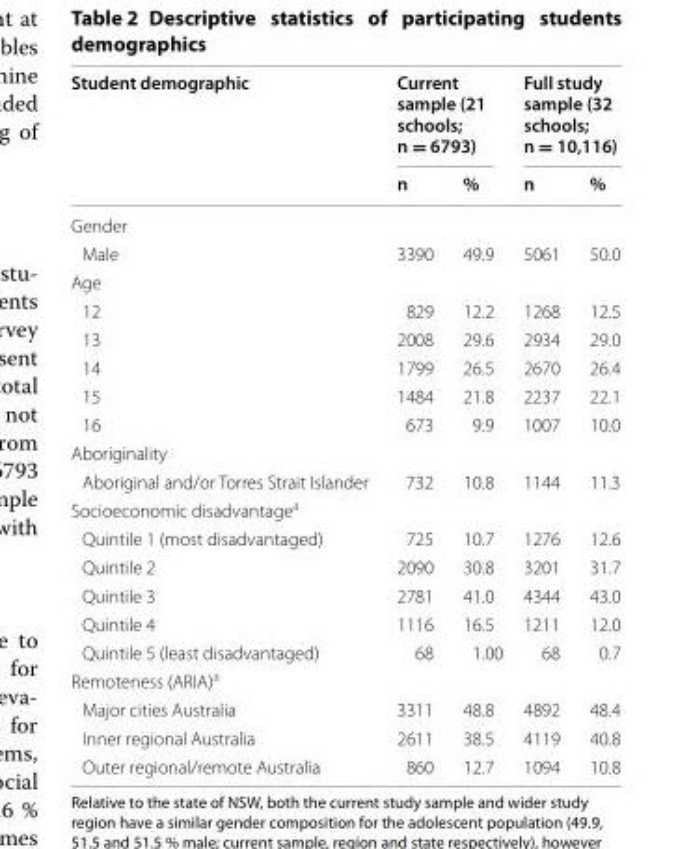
<table><thead><tr><td rowspan="2">Student demographic</td><td colspan="2">Current sample (21 schools; n = 6793)</td><td colspan="2">Full study sample (32 schools; n = 10,116)</td></tr><tr><td>n</td><td>%</td><td>n</td><td>%</td></tr></thead><tbody><tr><td colspan="5">Gender</td></tr><tr><td>Male</td><td>3390</td><td>49.9</td><td>5061</td><td>50.0</td></tr><tr><td colspan="5">Age</td></tr><tr><td>12</td><td>829</td><td>12.2</td><td>1268</td><td>12.5</td></tr><tr><td>13</td><td>2008</td><td>29.6</td><td>2934</td><td>29.0</td></tr><tr><td>14</td><td>1799</td><td>26.5</td><td>2670</td><td>26.4</td></tr><tr><td>15</td><td>1484</td><td>21.8</td><td>2237</td><td>22.1</td></tr><tr><td>16</td><td>673</td><td>9.9</td><td>1007</td><td>10.0</td></tr><tr><td colspan="5">Aboriginality</td></tr><tr><td>Aboriginal and/or Torres Strait Islander</td><td>732</td><td>10.8</td><td>1144</td><td>11.3</td></tr><tr><td colspan="5">Socioeconomic disadvantage<sup>a</sup></td></tr><tr><td>Quintile 1 (most disadvantaged)</td><td>725</td><td>10.7</td><td>1276</td><td>12.6</td></tr><tr><td>Quintile 2</td><td>2090</td><td>30.8</td><td>3201</td><td>31.7</td></tr><tr><td>Quintile 3</td><td>2781</td><td>41.0</td><td>4344</td><td>43.0</td></tr><tr><td>Quintile 4</td><td>1116</td><td>16.5</td><td>1211</td><td>12.0</td></tr><tr><td>Quintile 5 (least disadvantaged)</td><td>68</td><td>1.00</td><td>68</td><td>0.7</td></tr><tr><td colspan="5">Remoteness (ARIA)<sup>a</sup></td></tr><tr><td>Major cities Australia</td><td>3311</td><td>48.8</td><td>4892</td><td>48.4</td></tr><tr><td>Inner regional Australia</td><td>2611</td><td>38.5</td><td>4119</td><td>40.8</td></tr><tr><td>Outer regional/remote Australia</td><td>860</td><td>12.7</td><td>1094</td><td>10.8</td></tr></tbody></table>